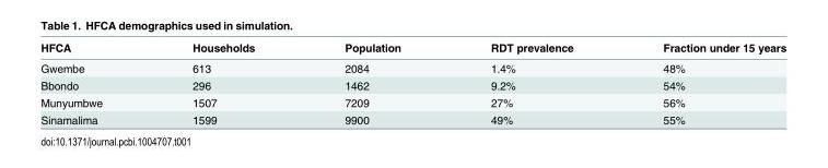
<table><thead><tr><td>HFCA</td><td>Households</td><td>Population</td><td>RDT prevalence</td><td>Fraction under 15 years</td></tr></thead><tbody><tr><td>Gwembe</td><td>613</td><td>2084</td><td>1.4%</td><td>48%</td></tr><tr><td>Bbondo</td><td>296</td><td>1462</td><td>9.2%</td><td>54%</td></tr><tr><td>Munyumbwe</td><td>1507</td><td>7209</td><td>27%</td><td>56%</td></tr><tr><td>Sinamalima</td><td>1599</td><td>9900</td><td>49%</td><td>55%</td></tr></tbody></table>